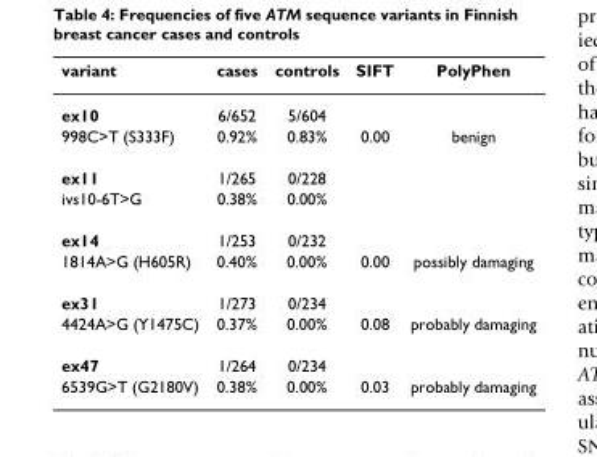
<table><thead><tr><td>variant</td><td>cases</td><td>controls</td><td>SIFT</td><td>PolyPhen</td></tr></thead><tbody><tr><td>ex10</td><td>6/652</td><td>5/604</td><td></td><td></td></tr><tr><td>998C&gt;T (S333F)</td><td>0.92%</td><td>0.83%</td><td>0.00</td><td>benign</td></tr><tr><td>ex11</td><td>1/265</td><td>0/228</td><td></td><td></td></tr><tr><td>ivs10-6T&gt;G</td><td>0.38%</td><td>0.00%</td><td></td><td></td></tr><tr><td>ex14</td><td>1/253</td><td>0/232</td><td></td><td></td></tr><tr><td>1814A&gt;G (H605R)</td><td>0.40%</td><td>0.00%</td><td>0.00</td><td>possibly damaging</td></tr><tr><td>ex31</td><td>1/273</td><td>0/234</td><td></td><td></td></tr><tr><td>4424A&gt;G (Y1475C)</td><td>0.37%</td><td>0.00%</td><td>0.08</td><td>probably damaging</td></tr><tr><td>ex47</td><td>1/264</td><td>0/234</td><td></td><td></td></tr><tr><td>6539G&gt;T (G2180V)</td><td>0.38%</td><td>0.00%</td><td>0.03</td><td>probably damaging</td></tr></tbody></table>